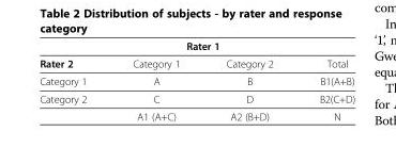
<table><thead><tr><td rowspan="2">Rater 2</td><td colspan="2">Rater 1</td><td rowspan="2">Total</td></tr><tr><td>Category 1</td><td>Category 2</td></tr></thead><tbody><tr><td>Category 1</td><td>A</td><td>B</td><td>B1(A+B)</td></tr><tr><td rowspan="2">Category 2</td><td>C</td><td>D</td><td>B2(C+D)</td></tr><tr><td>A1 (A+C)</td><td>A2 (B+D)</td><td>N</td></tr></tbody></table>